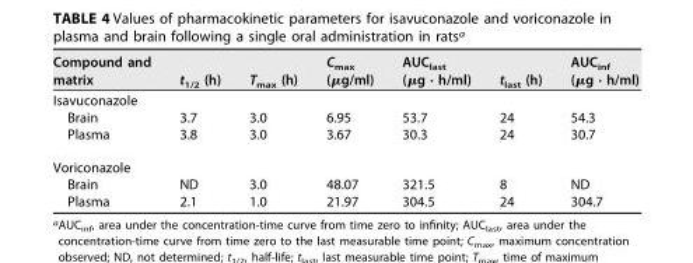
<table><thead><tr><td>Compound and matrix</td><td>t<sub>1/2</sub> (h)</td><td>T<sub>max</sub> (h)</td><td>C<sub>max</sub> (μg/ml)</td><td>AUC<sub>last</sub> (μg · h/ml)</td><td>t<sub>last</sub> (h)</td><td>AUC<sub>inf</sub> (μg · h/ml)</td></tr></thead><tbody><tr><td colspan="7">Isavuconazole</td></tr><tr><td>Brain</td><td>3.7</td><td>3.0</td><td>6.95</td><td>53.7</td><td>24</td><td>54.3</td></tr><tr><td>Plasma</td><td>3.8</td><td>3.0</td><td>3.67</td><td>30.3</td><td>24</td><td>30.7</td></tr><tr><td colspan="7">Voriconazole</td></tr><tr><td>Brain</td><td>ND</td><td>3.0</td><td>48.07</td><td>321.5</td><td>8</td><td>ND</td></tr><tr><td>Plasma</td><td>2.1</td><td>1.0</td><td>21.97</td><td>304.5</td><td>24</td><td>304.7</td></tr></tbody></table>